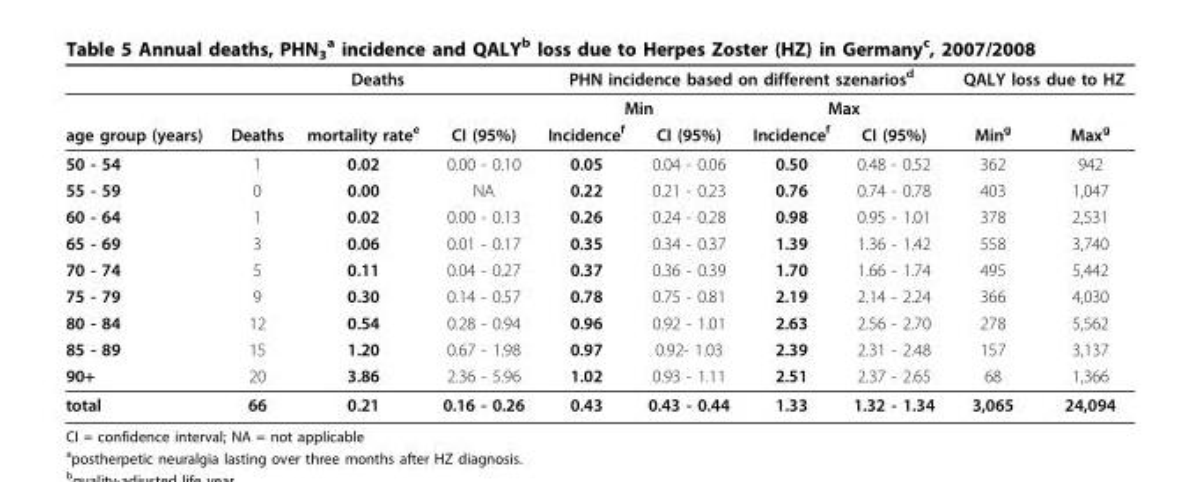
<table><thead><tr><td></td><td colspan="3">Deaths</td><td colspan="4">PHN incidence based on different szenarios<sup>d</sup></td><td colspan="2">QALY loss due to HZ</td></tr><tr><td colspan="4"></td><td colspan="2">Min</td><td colspan="2">Max</td><td rowspan="2">Min<sup>g</sup></td><td rowspan="2">Max<sup>g</sup></td></tr><tr><td>age group (years)</td><td>Deaths</td><td>mortality rate<sup>e</sup></td><td>CI (95%)</td><td>Incidence<sup>f</sup></td><td>CI (95%)</td><td>Incidence<sup>f</sup></td><td>CI (95%)</td></tr></thead><tbody><tr><td>50 - 54</td><td>1</td><td>0.02</td><td>0.00 - 0.10</td><td>0.05</td><td>0.04 - 0.06</td><td>0.50</td><td>0.48 - 0.52</td><td>362</td><td>942</td></tr><tr><td>55 - 59</td><td>0</td><td>0.00</td><td>NA</td><td>0.22</td><td>0.21 - 0.23</td><td>0.76</td><td>0.74 - 0.78</td><td>403</td><td>1,047</td></tr><tr><td>60 - 64</td><td>1</td><td>0.02</td><td>0.00 - 0.13</td><td>0.26</td><td>0.24 - 0.28</td><td>0.98</td><td>0.95 - 1.01</td><td>378</td><td>2,531</td></tr><tr><td>65 - 69</td><td>3</td><td>0.06</td><td>0.01 - 0.17</td><td>0.35</td><td>0.34 - 0.37</td><td>1.39</td><td>1.36 - 1.42</td><td>558</td><td>3,740</td></tr><tr><td>70 - 74</td><td>5</td><td>0.11</td><td>0.04 - 0.27</td><td>0.37</td><td>0.36 - 0.39</td><td>1.70</td><td>1.66 - 1.74</td><td>495</td><td>5,442</td></tr><tr><td>75 - 79</td><td>9</td><td>0.30</td><td>0.14 - 0.57</td><td>0.78</td><td>0.75 - 0.81</td><td>2.19</td><td>2.14 - 2.24</td><td>366</td><td>4,030</td></tr><tr><td>80 - 84</td><td>12</td><td>0.54</td><td>0.28 - 0.94</td><td>0.96</td><td>0.92 - 1.01</td><td>2.63</td><td>2.56 - 2.70</td><td>278</td><td>5,562</td></tr><tr><td>85 - 89</td><td>15</td><td>1.20</td><td>0.67 - 1.98</td><td>0.97</td><td>0.92- 1.03</td><td>2.39</td><td>2.31 - 2.48</td><td>157</td><td>3,137</td></tr><tr><td>90+</td><td>20</td><td>3.86</td><td>2.36 - 5.96</td><td>1.02</td><td>0.93 - 1.11</td><td>2.51</td><td>2.37 - 2.65</td><td>68</td><td>1,366</td></tr><tr><td>total</td><td>66</td><td>0.21</td><td>0.16 - 0.26</td><td>0.43</td><td>0.43 - 0.44</td><td>1.33</td><td>1.32 - 1.34</td><td>3,065</td><td>24,094</td></tr></tbody></table>